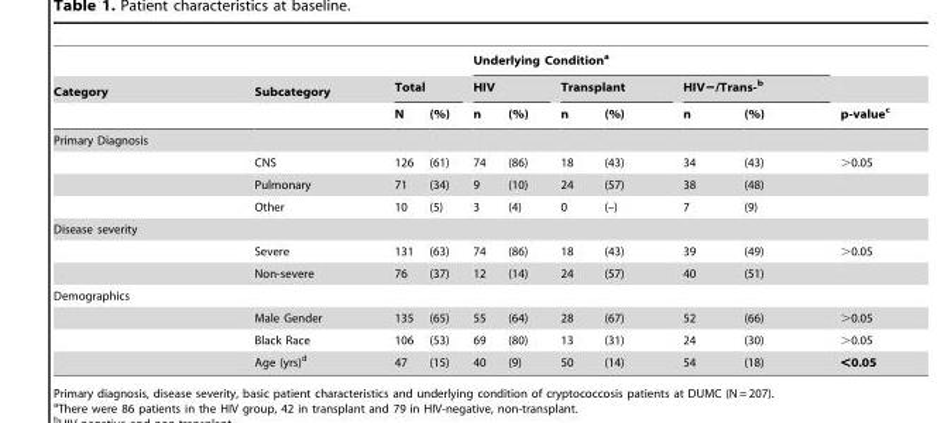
<table><thead><tr><td rowspan="3">Category</td><td rowspan="3">Subcategory</td><td></td><td></td><td colspan="6">Underlying Condition<sup>a</sup></td><td rowspan="3">p-value<sup>c</sup></td></tr><tr><td colspan="2">Total</td><td colspan="2">HIV</td><td colspan="2">Transplant</td><td colspan="2">HIV−/Trans-b</td></tr><tr><td>N</td><td>(%)</td><td>n</td><td>(%)</td><td>n</td><td>(%)</td><td>n</td><td>(%)</td></tr></thead><tbody><tr><td colspan="11">Primary Diagnosis</td></tr><tr><td></td><td>CNS</td><td>126</td><td>(61)</td><td>74</td><td>(86)</td><td>18</td><td>(43)</td><td>34</td><td>(43)</td><td>&gt;0.05</td></tr><tr><td></td><td>Pulmonary</td><td>71</td><td>(34)</td><td>9</td><td>(10)</td><td>24</td><td>(57)</td><td>38</td><td>(48)</td><td></td></tr><tr><td></td><td>Other</td><td>10</td><td>(5)</td><td>3</td><td>(4)</td><td>0</td><td>(–)</td><td>7</td><td>(9)</td><td></td></tr><tr><td colspan="11">Disease severity</td></tr><tr><td></td><td>Severe</td><td>131</td><td>(63)</td><td>74</td><td>(86)</td><td>18</td><td>(43)</td><td>39</td><td>(49)</td><td>&gt;0.05</td></tr><tr><td></td><td>Non-severe</td><td>76</td><td>(37)</td><td>12</td><td>(14)</td><td>24</td><td>(57)</td><td>40</td><td>(51)</td><td></td></tr><tr><td colspan="11">Demographics</td></tr><tr><td></td><td>Male Gender</td><td>135</td><td>(65)</td><td>55</td><td>(64)</td><td>28</td><td>(67)</td><td>52</td><td>(66)</td><td>&gt;0.05</td></tr><tr><td></td><td>Black Race</td><td>106</td><td>(53)</td><td>69</td><td>(80)</td><td>13</td><td>(31)</td><td>24</td><td>(30)</td><td>&gt;0.05</td></tr><tr><td></td><td>Age (yrs)<sup>d</sup></td><td>47</td><td>(15)</td><td>40</td><td>(9)</td><td>50</td><td>(14)</td><td>54</td><td>(18)</td><td>&lt;0.05</td></tr></tbody></table>